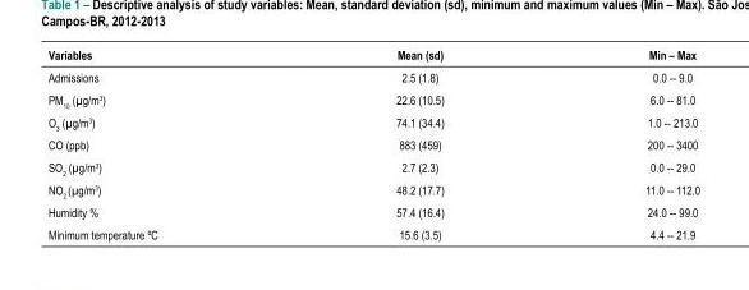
<table><thead><tr><td>Variables</td><td>Mean (sd)</td><td>Min – Max</td></tr></thead><tbody><tr><td>Admissions</td><td>2.5 (1.8)</td><td>0.0 -- 9.0</td></tr><tr><td>PM<sub>10</sub> (µg/m<sup>3</sup>)</td><td>22.6 (10.5)</td><td>6.0 -- 81.0</td></tr><tr><td>O<sub>3</sub> (µg/m<sup>3</sup>)</td><td>74.1 (34.4)</td><td>1.0 -- 213.0</td></tr><tr><td>CO (ppb)</td><td>883 (459)</td><td>200 -- 3400</td></tr><tr><td>SO<sub>2</sub> (µg/m<sup>3</sup>)</td><td>2.7 (2.3)</td><td>0.0 -- 29.0</td></tr><tr><td>NO<sub>2</sub> (µg/m<sup>3</sup>)</td><td>48.2 (17.7)</td><td>11.0 -- 112.0</td></tr><tr><td>Humidity %</td><td>57.4 (16.4)</td><td>24.0 -- 99.0</td></tr><tr><td>Minimum temperature ºC</td><td>15.6 (3.5)</td><td>4.4 -- 21.9</td></tr></tbody></table>